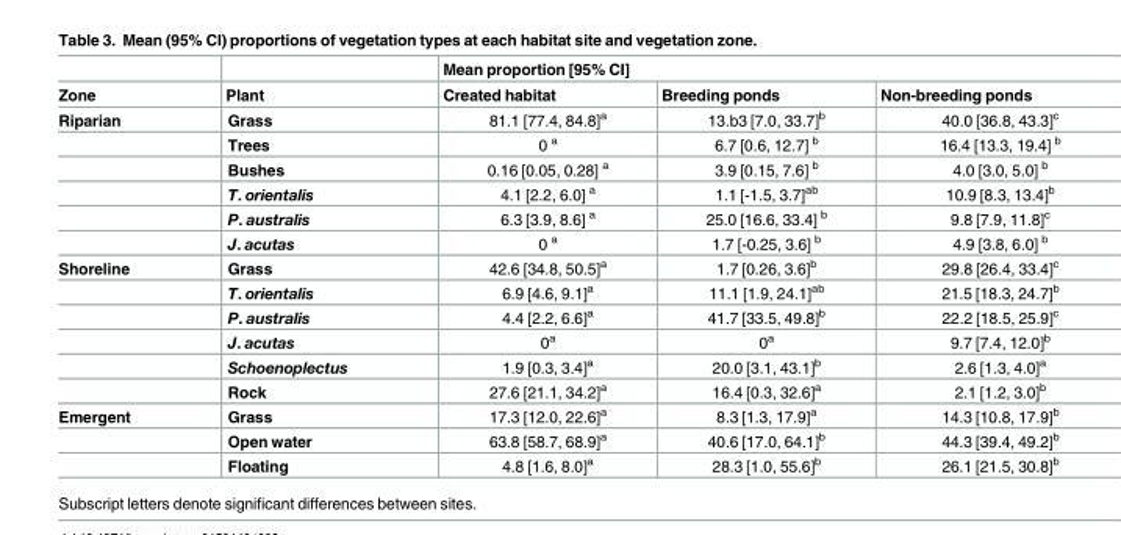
<table><thead><tr><td rowspan="2">Zone</td><td rowspan="2">Plant</td><td colspan="3">Mean proportion [95% CI]</td></tr><tr><td>Created habitat</td><td>Breeding ponds</td><td>Non-breeding ponds</td></tr></thead><tbody><tr><td rowspan="6">Riparian</td><td>Grass</td><td>81.1 [77.4, 84.8]<sup>a</sup></td><td>13.b3 [7.0, 33.7]<sup>b</sup></td><td>40.0 [36.8, 43.3]<sup>c</sup></td></tr><tr><td>Trees</td><td>0 <sup>a</sup></td><td>6.7 [0.6, 12.7] <sup>b</sup></td><td>16.4 [13.3, 19.4] <sup>b</sup></td></tr><tr><td>Bushes</td><td>0.16 [0.05, 0.28] <sup>a</sup></td><td>3.9 [0.15, 7.6] <sup>b</sup></td><td>4.0 [3.0, 5.0] <sup>b</sup></td></tr><tr><td>T. orientalis</td><td>4.1 [2.2, 6.0] <sup>a</sup></td><td>1.1 [-1.5, 3.7]<sup>ab</sup></td><td>10.9 [8.3, 13.4]<sup>b</sup></td></tr><tr><td>P. australis</td><td>6.3 [3.9, 8.6] <sup>a</sup></td><td>25.0 [16.6, 33.4] <sup>b</sup></td><td>9.8 [7.9, 11.8]<sup>c</sup></td></tr><tr><td>J. acutas</td><td>0 <sup>a</sup></td><td>1.7 [-0.25, 3.6] <sup>b</sup></td><td>4.9 [3.8, 6.0] <sup>b</sup></td></tr><tr><td rowspan="6">Shoreline</td><td>Grass</td><td>42.6 [34.8, 50.5]<sup>a</sup></td><td>1.7 [0.26, 3.6]<sup>b</sup></td><td>29.8 [26.4, 33.4]<sup>c</sup></td></tr><tr><td>T. orientalis</td><td>6.9 [4.6, 9.1]<sup>a</sup></td><td>11.1 [1.9, 24.1]<sup>ab</sup></td><td>21.5 [18.3, 24.7]<sup>b</sup></td></tr><tr><td>P. australis</td><td>4.4 [2.2, 6.6]<sup>a</sup></td><td>41.7 [33.5, 49.8]<sup>b</sup></td><td>22.2 [18.5, 25.9]<sup>c</sup></td></tr><tr><td>J. acutas</td><td>0<sup>a</sup></td><td>0<sup>a</sup></td><td>9.7 [7.4, 12.0]<sup>b</sup></td></tr><tr><td>Schoenoplectus</td><td>1.9 [0.3, 3.4]<sup>a</sup></td><td>20.0 [3.1, 43.1]<sup>b</sup></td><td>2.6 [1.3, 4.0]<sup>a</sup></td></tr><tr><td>Rock</td><td>27.6 [21.1, 34.2]<sup>a</sup></td><td>16.4 [0.3, 32.6]<sup>a</sup></td><td>2.1 [1.2, 3.0]<sup>b</sup></td></tr><tr><td rowspan="3">Emergent</td><td>Grass</td><td>17.3 [12.0, 22.6]<sup>a</sup></td><td>8.3 [1.3, 17.9]<sup>a</sup></td><td>14.3 [10.8, 17.9]<sup>b</sup></td></tr><tr><td>Open water</td><td>63.8 [58.7, 68.9]<sup>a</sup></td><td>40.6 [17.0, 64.1]<sup>b</sup></td><td>44.3 [39.4, 49.2]<sup>b</sup></td></tr><tr><td>Floating</td><td>4.8 [1.6, 8.0]<sup>a</sup></td><td>28.3 [1.0, 55.6]<sup>b</sup></td><td>26.1 [21.5, 30.8]<sup>b</sup></td></tr></tbody></table>